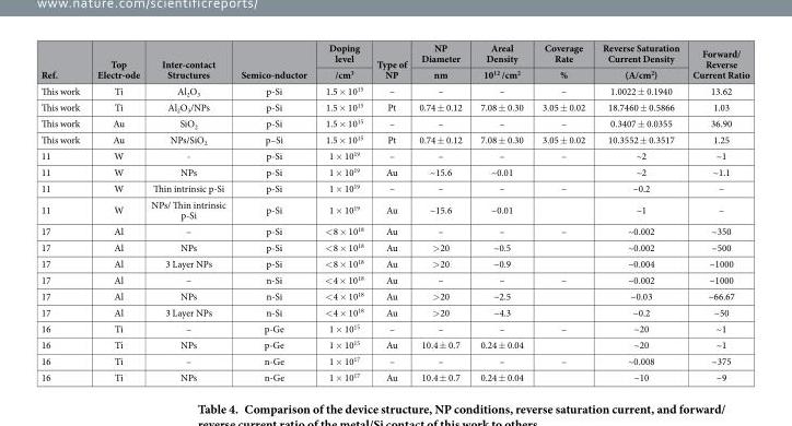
<table><thead><tr><td rowspan="2">Ref.</td><td rowspan="2">Top Electr-ode</td><td rowspan="2">Inter-contact Structures</td><td rowspan="2">Semico-nductor</td><td rowspan="2">Doping level /cm<sup>3</sup></td><td rowspan="2">Type of NP</td><td rowspan="2">NP Diameter nm</td><td rowspan="2">Areal Density 10<sup>12</sup> /cm<sup>2</sup></td><td rowspan="2">Coverage Rate %</td><td rowspan="2">Reverse Saturation Current Density (A/cm<sup>2</sup>)</td><td rowspan="2">Forward/ Reverse Current Ratio</td></tr><tr></tr></thead><tbody><tr><td>This work</td><td>Ti</td><td>Al<sub>2</sub>O<sub>3</sub></td><td>p-Si</td><td>1.5 × 10<sup>15</sup></td><td>–</td><td>–</td><td>–</td><td>–</td><td>1.0022 ± 0.1940</td><td>13.62</td></tr><tr><td>This work</td><td>Ti</td><td>Al<sub>2</sub>O<sub>3</sub>/NPs</td><td>p-Si</td><td>1.5 × 10<sup>15</sup></td><td>Pt</td><td>0.74 ± 0.12</td><td>7.08 ± 0.30</td><td>3.05 ± 0.02</td><td>18.7460 ± 0.5866</td><td>1.03</td></tr><tr><td>This work</td><td>Au</td><td>SiO<sub>2</sub></td><td>p-Si</td><td>1.5 × 10<sup>15</sup></td><td>–</td><td>–</td><td>–</td><td>–</td><td>0.3407 ± 0.0355</td><td>36.90</td></tr><tr><td>This work</td><td>Au</td><td>NPs/SiO<sub>2</sub></td><td>p–Si</td><td>1.5 × 10<sup>15</sup></td><td>Pt</td><td>0.74 ± 0.12</td><td>7.08 ± 0.30</td><td>3.05 ± 0.02</td><td>10.3552 ± 0.3517</td><td>1.25</td></tr><tr><td>11</td><td>W</td><td>-</td><td>p-Si</td><td>1 × 10<sup>19</sup></td><td>–</td><td>–</td><td>–</td><td>–</td><td>~2</td><td>~1</td></tr><tr><td>11</td><td>W</td><td>NPs</td><td>p-Si</td><td>1 × 10<sup>19</sup></td><td>Au</td><td>~15.6</td><td>~0.01</td><td></td><td>~2</td><td>~1.1</td></tr><tr><td>11</td><td>W</td><td>Thin intrinsic p-Si</td><td>p-Si</td><td>1 × 10<sup>19</sup></td><td>–</td><td>–</td><td>–</td><td>–</td><td>~0.2</td><td>–</td></tr><tr><td>11</td><td>W</td><td>NPs/ Thin intrinsic p-Si</td><td>p-Si</td><td>1 × 10<sup>19</sup></td><td>Au</td><td>~15.6</td><td>~0.01</td><td></td><td>~1</td><td>–</td></tr><tr><td>17</td><td>Al</td><td>–</td><td>p-Si</td><td>&lt; 8 × 10<sup>18</sup></td><td>Au</td><td>–</td><td>–</td><td>–</td><td>~0.002</td><td>~350</td></tr><tr><td>17</td><td>Al</td><td>NPs</td><td>p-Si</td><td>&lt; 8 × 10<sup>18</sup></td><td>Au</td><td>&gt; 20</td><td>~0.5</td><td></td><td>~0.002</td><td>~500</td></tr><tr><td>17</td><td>Al</td><td>3 Layer NPs</td><td>p-Si</td><td>&lt; 8 × 10<sup>18</sup></td><td>Au</td><td>&gt; 20</td><td>~0.9</td><td></td><td>~0.004</td><td>~1000</td></tr><tr><td>17</td><td>Al</td><td>–</td><td>n-Si</td><td>&lt; 4 × 10<sup>18</sup></td><td>Au</td><td>–</td><td>–</td><td>–</td><td>~0.002</td><td>~1000</td></tr><tr><td>17</td><td>Al</td><td>NPs</td><td>n-Si</td><td>&lt; 4 × 10<sup>18</sup></td><td>Au</td><td>&gt; 20</td><td>~2.5</td><td></td><td>~0.03</td><td>~66.67</td></tr><tr><td>17</td><td>Al</td><td>3 Layer NPs</td><td>n-Si</td><td>&lt; 4 × 10<sup>18</sup></td><td>Au</td><td>&gt; 20</td><td>~4.3</td><td></td><td>~0.2</td><td>~50</td></tr><tr><td>16</td><td>Ti</td><td>–</td><td>p-Ge</td><td>1 × 10<sup>15</sup></td><td>–</td><td>–</td><td>–</td><td>–</td><td>~20</td><td>~1</td></tr><tr><td>16</td><td>Ti</td><td>NPs</td><td>p-Ge</td><td>1 × 10<sup>15</sup></td><td>Au</td><td>10.4 ± 0.7</td><td>0.24 ± 0.04</td><td></td><td>~20</td><td>~1</td></tr><tr><td>16</td><td>Ti</td><td>–</td><td>n-Ge</td><td>1 × 10<sup>17</sup></td><td>–</td><td>–</td><td>–</td><td>–</td><td>~0.008</td><td>~375</td></tr><tr><td>16</td><td>Ti</td><td>NPs</td><td>n-Ge</td><td>1 × 10<sup>17</sup></td><td>Au</td><td>10.4 ± 0.7</td><td>0.24 ± 0.04</td><td></td><td>~10</td><td>~9</td></tr></tbody></table>